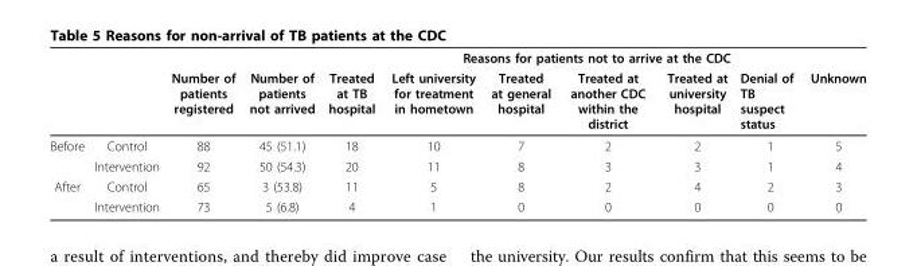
<table><thead><tr><td rowspan="2"></td><td rowspan="2"></td><td rowspan="2">Number of patients registered</td><td rowspan="2">Number of patients not arrived</td><td colspan="7">Reasons for patients not to arrive at the CDC</td></tr><tr><td>Treated at TB hospital</td><td>Left university for treatment in hometown</td><td>Treated at general hospital</td><td>Treated at another CDC within the district</td><td>Treated at university hospital</td><td>Denial of TB suspect status</td><td>Unknown</td></tr></thead><tbody><tr><td rowspan="2">Before</td><td>Control</td><td>88</td><td>45 (51.1)</td><td>18</td><td>10</td><td>7</td><td>2</td><td>2</td><td>1</td><td>5</td></tr><tr><td>Intervention</td><td>92</td><td>50 (54.3)</td><td>20</td><td>11</td><td>8</td><td>3</td><td>3</td><td>1</td><td>4</td></tr><tr><td rowspan="2">After</td><td>Control</td><td>65</td><td>3 (53.8)</td><td>11</td><td>5</td><td>8</td><td>2</td><td>4</td><td>2</td><td>3</td></tr><tr><td>Intervention</td><td>73</td><td>5 (6.8)</td><td>4</td><td>1</td><td>0</td><td>0</td><td>0</td><td>0</td><td>0</td></tr></tbody></table>